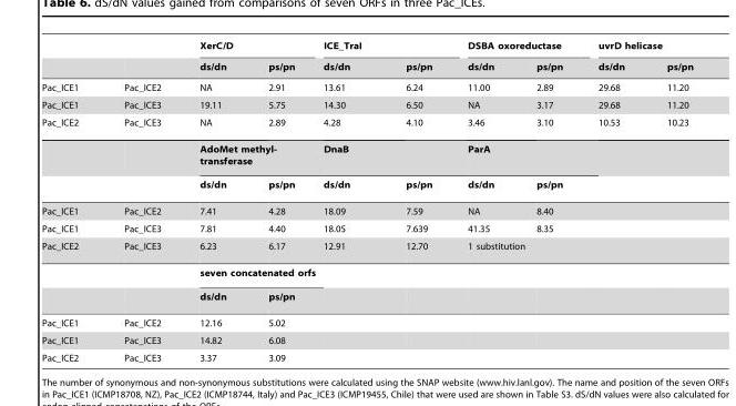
<table><thead><tr><td rowspan="2"></td><td rowspan="2"></td><td colspan="2">XerC/D</td><td colspan="2">ICE_TraI</td><td colspan="2">DSBA oxoreductase</td><td colspan="2">uvrD helicase</td></tr><tr><td>ds/dn</td><td>ps/pn</td><td>ds/dn</td><td>ps/pn</td><td>ds/dn</td><td>ps/pn</td><td>ds/dn</td><td>ps/pn</td></tr></thead><tbody><tr><td>Pac_ICE1</td><td>Pac_ICE2</td><td>NA</td><td>2.91</td><td>13.61</td><td>6.24</td><td>11.00</td><td>2.89</td><td>29.68</td><td>11.20</td></tr><tr><td>Pac_ICE1</td><td>Pac_ICE3</td><td>19.11</td><td>5.75</td><td>14.30</td><td>6.50</td><td>NA</td><td>3.17</td><td>29.68</td><td>11.20</td></tr><tr><td rowspan="3">Pac_ICE2</td><td>Pac_ICE3</td><td>NA</td><td>2.89</td><td>4.28</td><td>4.10</td><td>3.46</td><td>3.10</td><td>10.53</td><td>10.23</td></tr><tr><td></td><td colspan="2">AdoMet methyl- transferase</td><td colspan="2">DnaB</td><td colspan="2">ParA</td><td></td><td></td></tr><tr><td></td><td>ds/dn</td><td>ps/pn</td><td>ds/dn</td><td>ps/pn</td><td>ds/dn</td><td>ps/pn</td><td></td><td></td></tr><tr><td>Pac_ICE1</td><td>Pac_ICE2</td><td>7.41</td><td>4.28</td><td>18.09</td><td>7.59</td><td>NA</td><td>8.40</td><td></td><td></td></tr><tr><td>Pac_ICE1</td><td>Pac_ICE3</td><td>7.81</td><td>4.40</td><td>18.05</td><td>7.639</td><td>41.35</td><td>8.35</td><td></td><td></td></tr><tr><td rowspan="3">Pac_ICE2</td><td>Pac_ICE3</td><td>6.23</td><td>6.17</td><td>12.91</td><td>12.70</td><td colspan="2">1 substitution</td><td></td><td></td></tr><tr><td></td><td colspan="2">seven concatenated orfs</td><td></td><td></td><td></td><td></td><td></td><td></td></tr><tr><td></td><td>ds/dn</td><td>ps/pn</td><td></td><td></td><td></td><td></td><td></td><td></td></tr><tr><td>Pac_ICE1</td><td>Pac_ICE2</td><td>12.16</td><td>5.02</td><td></td><td></td><td></td><td></td><td></td><td></td></tr><tr><td>Pac_ICE1</td><td>Pac_ICE3</td><td>14.82</td><td>6.08</td><td></td><td></td><td></td><td></td><td></td><td></td></tr><tr><td>Pac_ICE2</td><td>Pac_ICE3</td><td>3.37</td><td>3.09</td><td></td><td></td><td></td><td></td><td></td><td></td></tr></tbody></table>